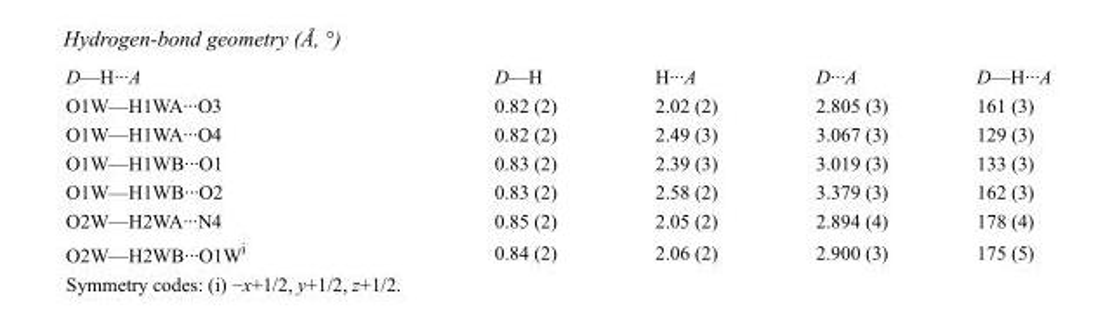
<table><tbody><tr><td>D—H···A</td><td>D—H</td><td>H···A</td><td>D···A</td><td>D—H···A</td></tr><tr><td>O1W—H1WA···O3</td><td>0.82 (2)</td><td>2.02 (2)</td><td>2.805 (3)</td><td>161 (3)</td></tr><tr><td>O1W—H1WA···O4</td><td>0.82 (2)</td><td>2.49 (3)</td><td>3.067 (3)</td><td>129 (3)</td></tr><tr><td>O1W—H1WB···O1</td><td>0.83 (2)</td><td>2.39 (3)</td><td>3.019 (3)</td><td>133 (3)</td></tr><tr><td>O1W—H1WB···O2</td><td>0.83 (2)</td><td>2.58 (2)</td><td>3.379 (3)</td><td>162 (3)</td></tr><tr><td>O2W—H2WA···N4</td><td>0.85 (2)</td><td>2.05 (2)</td><td>2.894 (4)</td><td>178 (4)</td></tr><tr><td>O2W—H2WB···O1W<sup>i</sup></td><td>0.84 (2)</td><td>2.06 (2)</td><td>2.900 (3)</td><td>175 (5)</td></tr></tbody></table>